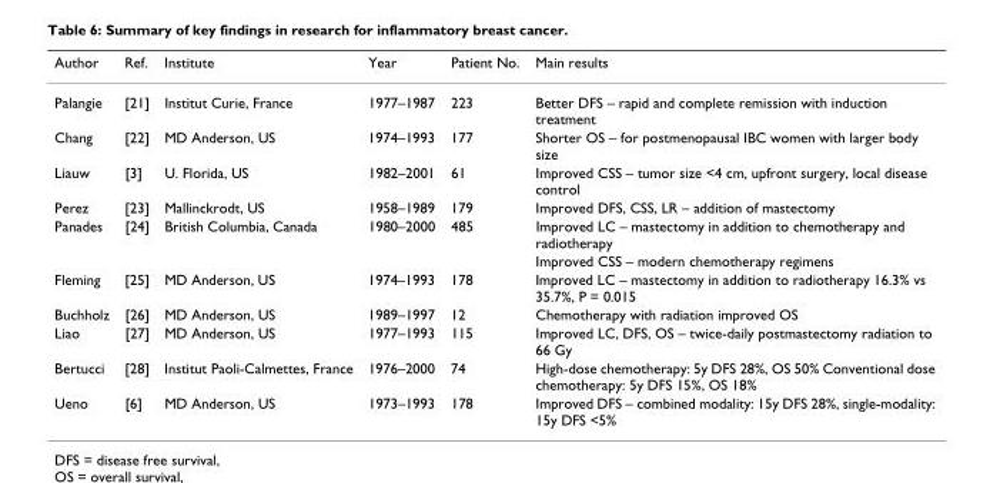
<table><thead><tr><td>Author</td><td>Ref.</td><td>Institute</td><td>Year</td><td>Patient No.</td><td>Main results</td></tr></thead><tbody><tr><td>Palangie</td><td>[21]</td><td>Institut Curie, France</td><td>1977–1987</td><td>223</td><td>Better DFS – rapid and complete remission with induction treatment</td></tr><tr><td>Chang</td><td>[22]</td><td>MD Anderson, US</td><td>1974–1993</td><td>177</td><td>Shorter OS – for postmenopausal IBC women with larger body size</td></tr><tr><td>Liauw</td><td>[3]</td><td>U. Florida, US</td><td>1982–2001</td><td>61</td><td>Improved CSS – tumor size &lt;4 cm, upfront surgery, local disease control</td></tr><tr><td>Perez</td><td>[23]</td><td>Mallinckrodt, US</td><td>1958–1989</td><td>179</td><td>Improved DFS, CSS, LR – addition of mastectomy</td></tr><tr><td rowspan="2">Panades</td><td>[24]</td><td>British Columbia, Canada</td><td>1980–2000</td><td>485</td><td>Improved LC – mastectomy in addition to chemotherapy and radiotherapy</td></tr><tr><td></td><td></td><td></td><td></td><td>Improved CSS – modern chemotherapy regimens</td></tr><tr><td>Fleming</td><td>[25]</td><td>MD Anderson, US</td><td>1974–1993</td><td>178</td><td>Improved LC – mastectomy in addition to radiotherapy 16.3% vs 35.7%, P = 0.015</td></tr><tr><td>Buchholz</td><td>[26]</td><td>MD Anderson, US</td><td>1989–1997</td><td>12</td><td>Chemotherapy with radiation improved OS</td></tr><tr><td>Liao</td><td>[27]</td><td>MD Anderson, US</td><td>1977–1993</td><td>115</td><td>Improved LC, DFS, OS – twice-daily postmastectomy radiation to 66 Gy</td></tr><tr><td>Bertucci</td><td>[28]</td><td>Institut Paoli-Calmettes, France</td><td>1976–2000</td><td>74</td><td>High-dose chemotherapy: 5y DFS 28%, OS 50% Conventional dose chemotherapy: 5y DFS 15%, OS 18%</td></tr><tr><td>Ueno</td><td>[6]</td><td>MD Anderson, US</td><td>1973–1993</td><td>178</td><td>Improved DFS – combined modality: 15y DFS 28%, single-modality: 15y DFS &lt;5%</td></tr></tbody></table>